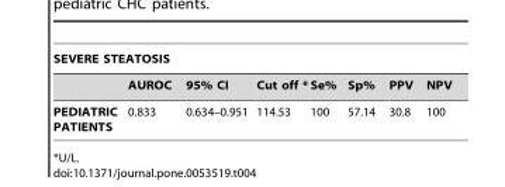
<table><thead><tr><td colspan="8">SEVERE STEATOSIS</td></tr><tr><td></td><td>AUROC</td><td>95% CI</td><td>Cut off *</td><td>Se%</td><td>Sp%</td><td>PPV</td><td>NPV</td></tr></thead><tbody><tr><td>PEDIATRIC PATIENTS</td><td>0.833</td><td>0.634–0.951</td><td>114.53</td><td>100</td><td>57.14</td><td>30.8</td><td>100</td></tr></tbody></table>